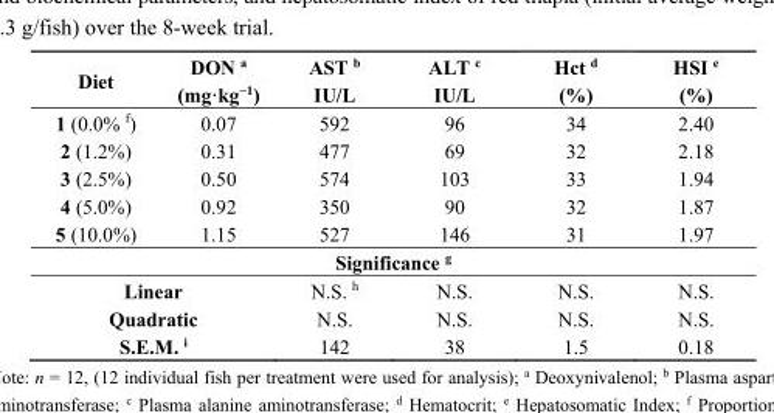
<table><thead><tr><td rowspan="2">Diet</td><td rowspan="2">DON <sup>a</sup> (mg·kg<sup>−1</sup>)</td><td rowspan="2">AST <sup>b</sup> IU/L</td><td rowspan="2">ALT <sup>c</sup> IU/L</td><td rowspan="2">Hct <sup>d</sup> (%)</td><td rowspan="2">HSI <sup>e</sup> (%)</td></tr><tr></tr></thead><tbody><tr><td>1 (0.0% <sup>f</sup>)</td><td>0.07</td><td>592</td><td>96</td><td>34</td><td>2.40</td></tr><tr><td>2 (1.2%)</td><td>0.31</td><td>477</td><td>69</td><td>32</td><td>2.18</td></tr><tr><td>3 (2.5%)</td><td>0.50</td><td>574</td><td>103</td><td>33</td><td>1.94</td></tr><tr><td>4 (5.0%)</td><td>0.92</td><td>350</td><td>90</td><td>32</td><td>1.87</td></tr><tr><td>5 (10.0%)</td><td>1.15</td><td>527</td><td>146</td><td>31</td><td>1.97</td></tr><tr><td colspan="6">Significance <sup>g</sup></td></tr><tr><td colspan="2">Linear</td><td>N.S. <sup>h</sup></td><td>N.S.</td><td>N.S.</td><td>N.S.</td></tr><tr><td colspan="2">Quadratic</td><td>N.S.</td><td>N.S.</td><td>N.S.</td><td>N.S.</td></tr><tr><td colspan="2">S.E.M. <sup>i</sup></td><td>142</td><td>38</td><td>1.5</td><td>0.18</td></tr></tbody></table>